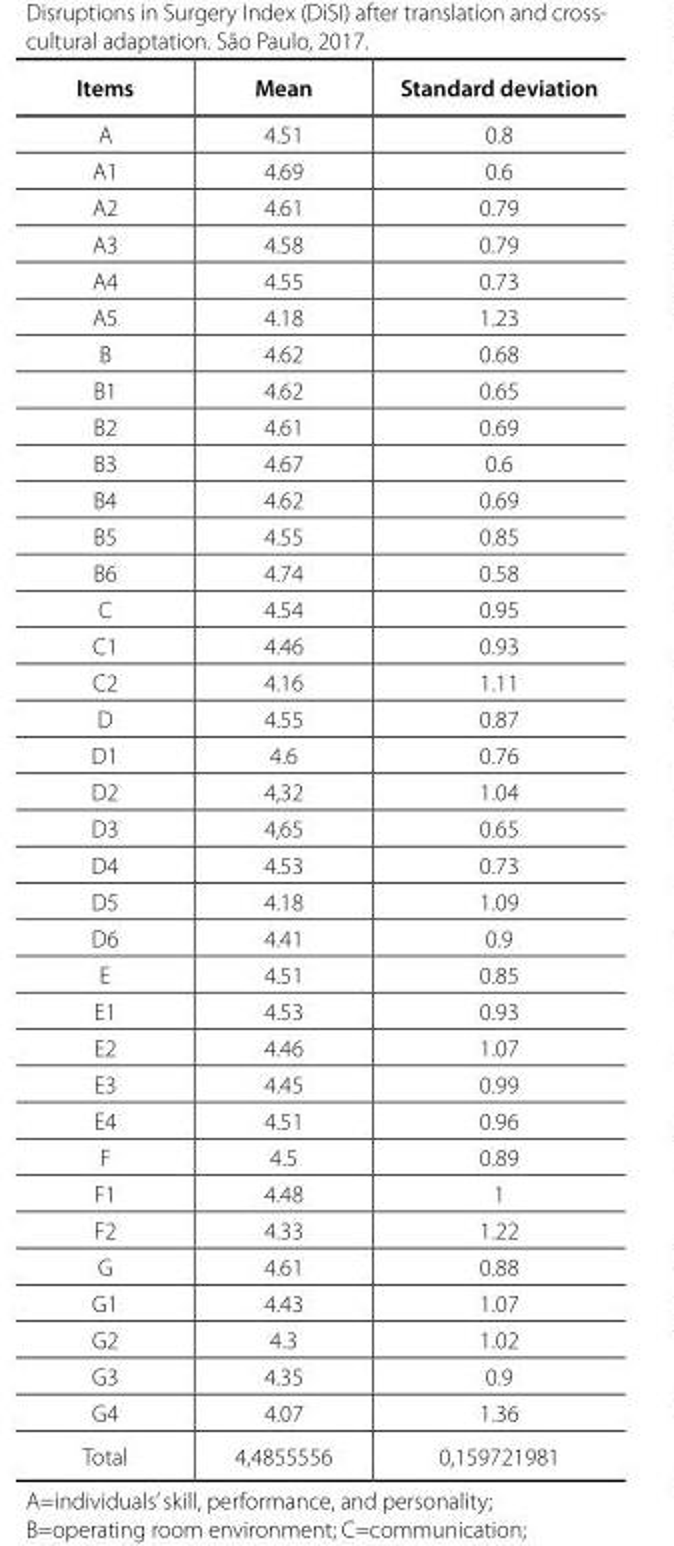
<table><thead><tr><td>Items</td><td>Mean</td><td>Standard deviation</td></tr></thead><tbody><tr><td>A</td><td>4.51</td><td>0.8</td></tr><tr><td>A1</td><td>4.69</td><td>0.6</td></tr><tr><td>A2</td><td>4.61</td><td>0.79</td></tr><tr><td>A3</td><td>4.58</td><td>0.79</td></tr><tr><td>A4</td><td>4.55</td><td>0.73</td></tr><tr><td>A5</td><td>4.18</td><td>1.23</td></tr><tr><td>B</td><td>4.62</td><td>0.68</td></tr><tr><td>B1</td><td>4.62</td><td>0.65</td></tr><tr><td>B2</td><td>4.61</td><td>0.69</td></tr><tr><td>B3</td><td>4.67</td><td>0.6</td></tr><tr><td>B4</td><td>4.62</td><td>0.69</td></tr><tr><td>B5</td><td>4.55</td><td>0.85</td></tr><tr><td>B6</td><td>4.74</td><td>0.58</td></tr><tr><td>C</td><td>4.54</td><td>0.95</td></tr><tr><td>C1</td><td>4.46</td><td>0.93</td></tr><tr><td>C2</td><td>4.16</td><td>1.11</td></tr><tr><td>D</td><td>4.55</td><td>0.87</td></tr><tr><td>D1</td><td>4.6</td><td>0.76</td></tr><tr><td>D2</td><td>4,32</td><td>1.04</td></tr><tr><td>D3</td><td>4,65</td><td>0.65</td></tr><tr><td>D4</td><td>4.53</td><td>0.73</td></tr><tr><td>D5</td><td>4.18</td><td>1.09</td></tr><tr><td>D6</td><td>4.41</td><td>0.9</td></tr><tr><td>E</td><td>4.51</td><td>0.85</td></tr><tr><td>E1</td><td>4.53</td><td>0.93</td></tr><tr><td>E2</td><td>4.46</td><td>1.07</td></tr><tr><td>E3</td><td>4.45</td><td>0.99</td></tr><tr><td>E4</td><td>4.51</td><td>0.96</td></tr><tr><td>F</td><td>4.5</td><td>0.89</td></tr><tr><td>F1</td><td>4.48</td><td>1</td></tr><tr><td>F2</td><td>4.33</td><td>1.22</td></tr><tr><td>G</td><td>4.61</td><td>0.88</td></tr><tr><td>G1</td><td>4.43</td><td>1.07</td></tr><tr><td>G2</td><td>4.3</td><td>1.02</td></tr><tr><td>G3</td><td>4.35</td><td>0.9</td></tr><tr><td>G4</td><td>4.07</td><td>1.36</td></tr><tr><td>Total</td><td>4,4855556</td><td>0,159721981</td></tr></tbody></table>